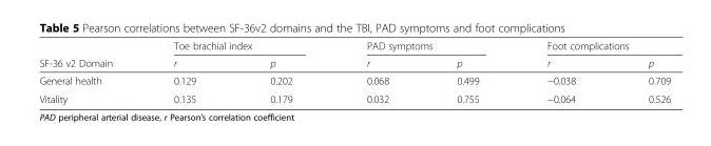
<table><thead><tr><td rowspan="2">SF-36 v2 Domain</td><td colspan="2">Toe brachial index</td><td colspan="2">PAD symptoms</td><td colspan="2">Foot complications</td></tr><tr><td>r</td><td>p</td><td>r</td><td>p</td><td>r</td><td>p</td></tr></thead><tbody><tr><td>General health</td><td>0.129</td><td>0.202</td><td>0.068</td><td>0.499</td><td>−0.038</td><td>0.709</td></tr><tr><td>Vitality</td><td>0.135</td><td>0.179</td><td>0.032</td><td>0.755</td><td>−0.064</td><td>0.526</td></tr></tbody></table>